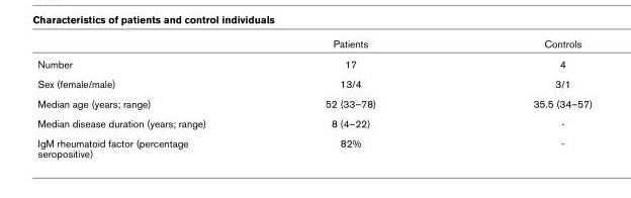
<table><thead><tr><td></td><td>Patients</td><td>Controls</td></tr></thead><tbody><tr><td>Number</td><td>17</td><td>4</td></tr><tr><td>Sex (female/male)</td><td>13/4</td><td>3/1</td></tr><tr><td>Median age (years; range)</td><td>52 (33–78)</td><td>35.5 (34–57)</td></tr><tr><td>Median disease duration (years; range)</td><td>8 (4–22)</td><td>-</td></tr><tr><td>IgM rheumatoid factor (percentage seropositive)</td><td>82%</td><td>-</td></tr></tbody></table>